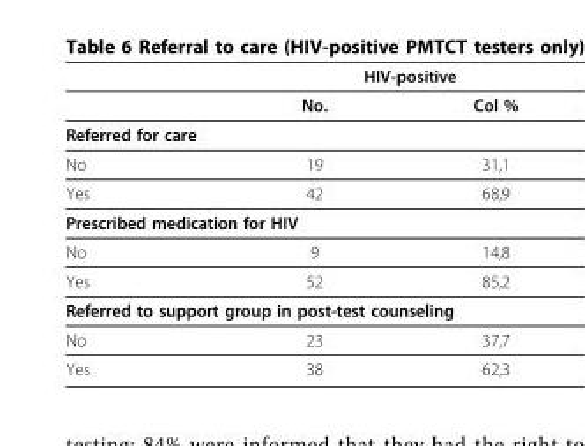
<table><thead><tr><td rowspan="2"></td><td colspan="2">HIV-positive</td></tr><tr><td>No.</td><td>Col %</td></tr></thead><tbody><tr><td colspan="3">Referred for care</td></tr><tr><td>No</td><td>19</td><td>31,1</td></tr><tr><td>Yes</td><td>42</td><td>68,9</td></tr><tr><td colspan="3">Prescribed medication for HIV</td></tr><tr><td>No</td><td>9</td><td>14,8</td></tr><tr><td>Yes</td><td>52</td><td>85,2</td></tr><tr><td colspan="3">Referred to support group in post-test counseling</td></tr><tr><td>No</td><td>23</td><td>37,7</td></tr><tr><td>Yes</td><td>38</td><td>62,3</td></tr></tbody></table>